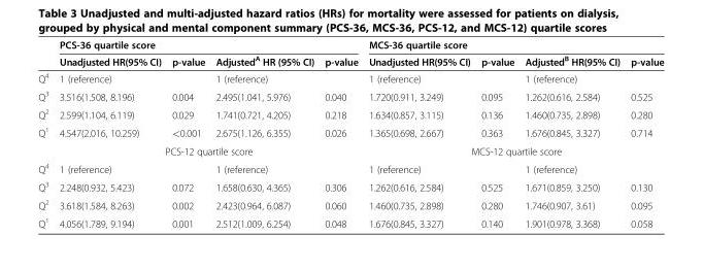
<table><thead><tr><td rowspan="2"></td><td colspan="4">PCS-36 quartile score</td><td colspan="4">MCS-36 quartile score</td></tr><tr><td>Unadjusted HR(95% CI)</td><td>p-value</td><td>AdjustedA HR (95% CI)</td><td>p-value</td><td>Unadjusted HR(95% CI)</td><td>p-value</td><td>Adjusted<sup>B</sup> HR(95% CI)</td><td>p-value</td></tr></thead><tbody><tr><td>Q<sup>4</sup></td><td>1 (reference)</td><td></td><td>1 (reference)</td><td></td><td>1 (reference)</td><td></td><td>1 (reference)</td><td></td></tr><tr><td>Q<sup>3</sup></td><td>3.516(1.508, 8.196)</td><td>0.004</td><td>2.495(1.041, 5.976)</td><td>0.040</td><td>1.720(0.911, 3.249)</td><td>0.095</td><td>1.262(0.616, 2.584)</td><td>0.525</td></tr><tr><td>Q<sup>2</sup></td><td>2.599(1.104, 6.119)</td><td>0.029</td><td>1.741(0.721, 4.205)</td><td>0.218</td><td>1.634(0.857, 3.115)</td><td>0.136</td><td>1.460(0.735, 2.898)</td><td>0.280</td></tr><tr><td rowspan="2">Q<sup>1</sup></td><td>4.547(2.016, 10.259)</td><td>&lt;0.001</td><td>2.675(1.126, 6.355)</td><td>0.026</td><td>1.365(0.698, 2.667)</td><td>0.363</td><td>1.676(0.845, 3.327)</td><td>0.714</td></tr><tr><td colspan="4">PCS-12 quartile score</td><td colspan="4">MCS-12 quartile score</td></tr><tr><td>Q<sup>4</sup></td><td>1 (reference)</td><td></td><td>1 (reference)</td><td></td><td>1 (reference)</td><td></td><td>1 (reference)</td><td></td></tr><tr><td>Q<sup>3</sup></td><td>2.248(0.932, 5.423)</td><td>0.072</td><td>1.658(0.630, 4.365)</td><td>0.306</td><td>1.262(0.616, 2.584)</td><td>0.525</td><td>1.671(0.859, 3.250)</td><td>0.130</td></tr><tr><td>Q<sup>2</sup></td><td>3.618(1.584, 8.263)</td><td>0.002</td><td>2.423(0.964, 6.087)</td><td>0.060</td><td>1.460(0.735, 2.898)</td><td>0.280</td><td>1.746(0.907, 3.61)</td><td>0.095</td></tr><tr><td>Q<sup>1</sup></td><td>4.056(1.789, 9.194)</td><td>0.001</td><td>2.512(1.009, 6.254)</td><td>0.048</td><td>1.676(0.845, 3.327)</td><td>0.140</td><td>1.901(0.978, 3.368)</td><td>0.058</td></tr></tbody></table>